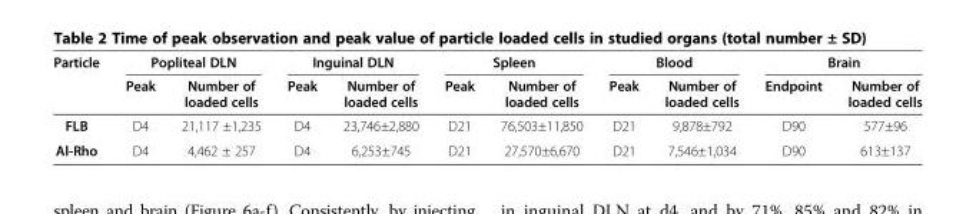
<table><thead><tr><td rowspan="2">Particle</td><td colspan="2">Popliteal DLN</td><td colspan="2">Inguinal DLN</td><td colspan="2">Spleen</td><td colspan="2">Blood</td><td colspan="2">Brain</td></tr><tr><td>Peak</td><td>Number of loaded cells</td><td>Peak</td><td>Number of loaded cells</td><td>Peak</td><td>Number of loaded cells</td><td>Peak</td><td>Number of loaded cells</td><td>Endpoint</td><td>Number of loaded cells</td></tr></thead><tbody><tr><td>FLB</td><td>D4</td><td>21,117 ±1,235</td><td>D4</td><td>23,746±2,880</td><td>D21</td><td>76,503±11,850</td><td>D21</td><td>9,878±792</td><td>D90</td><td>577±96</td></tr><tr><td>Al-Rho</td><td>D4</td><td>4,462 ± 257</td><td>D4</td><td>6,253±745</td><td>D21</td><td>27,570±6,670</td><td>D21</td><td>7,546±1,034</td><td>D90</td><td>613±137</td></tr></tbody></table>